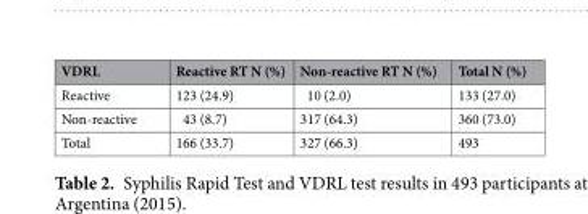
<table><thead><tr><td>VDRL</td><td>Reactive RT N (%)</td><td>Non-reactive RT N (%)</td><td>Total N (%)</td></tr></thead><tbody><tr><td>Reactive</td><td>123 (24.9)</td><td>10 (2.0)</td><td>133 (27.0)</td></tr><tr><td>Non-reactive</td><td>43 (8.7)</td><td>317 (64.3)</td><td>360 (73.0)</td></tr><tr><td>Total</td><td>166 (33.7)</td><td>327 (66.3)</td><td>493</td></tr></tbody></table>